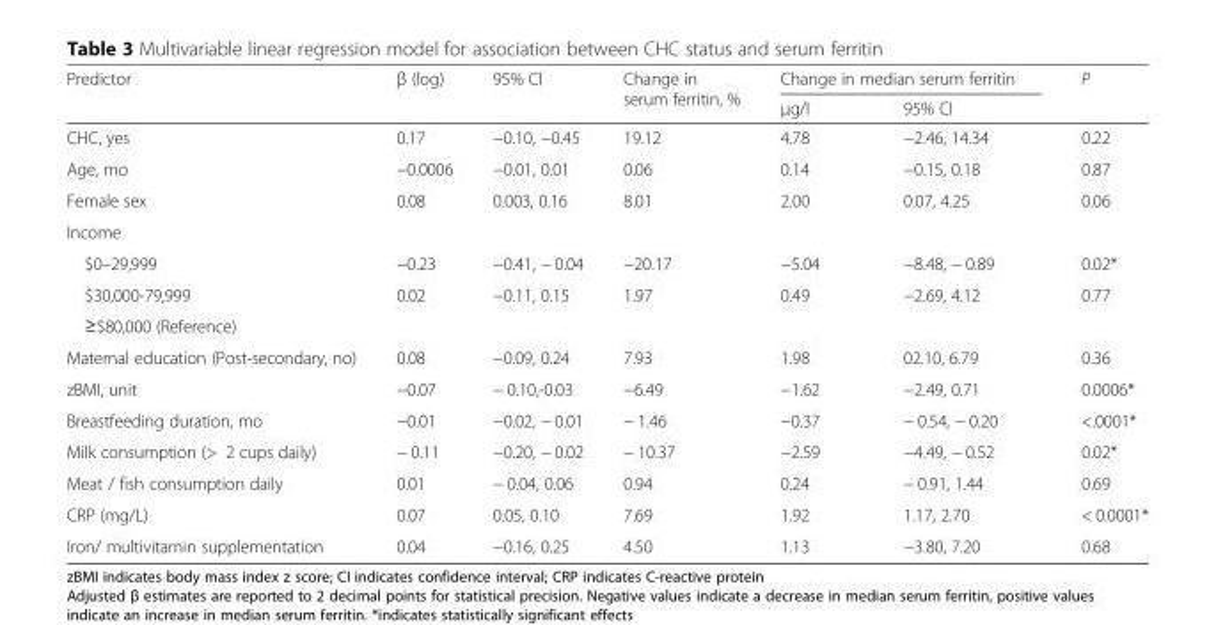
<table><thead><tr><td rowspan="2">Predictor</td><td rowspan="2">β (log)</td><td rowspan="2">95% CI</td><td rowspan="2">Change in serum ferritin, %</td><td colspan="2">Change in median serum ferritin</td><td rowspan="2">P</td></tr><tr><td>μg/l</td><td>95% CI</td></tr></thead><tbody><tr><td>CHC, yes</td><td>0.17</td><td>−0.10, −0.45</td><td>19.12</td><td>4.78</td><td>−2.46, 14.34</td><td>0.22</td></tr><tr><td>Age, mo</td><td>−0.0006</td><td>−0.01, 0.01</td><td>0.06</td><td>0.14</td><td>−0.15, 0.18</td><td>0.87</td></tr><tr><td>Female sex</td><td>0.08</td><td>0.003, 0.16</td><td>8.01</td><td>2.00</td><td>0.07, 4.25</td><td>0.06</td></tr><tr><td colspan="7">Income</td></tr><tr><td>$0–29,999</td><td>−0.23</td><td>−0.41, − 0.04</td><td>−20.17</td><td>−5.04</td><td>−8.48, − 0.89</td><td>0.02*</td></tr><tr><td>$30,000-79,999</td><td>0.02</td><td>−0.11, 0.15</td><td>1.97</td><td>0.49</td><td>−2.69, 4.12</td><td>0.77</td></tr><tr><td colspan="7">≥$80,000 (Reference)</td></tr><tr><td>Maternal education (Post-secondary, no)</td><td>0.08</td><td>−0.09, 0.24</td><td>7.93</td><td>1.98</td><td>02.10, 6.79</td><td>0.36</td></tr><tr><td>zBMI, unit</td><td>−0.07</td><td>− 0.10,-0.03</td><td>−6.49</td><td>−1.62</td><td>−2.49, 0.71</td><td>0.0006*</td></tr><tr><td>Breastfeeding duration, mo</td><td>−0.01</td><td>−0.02, − 0.01</td><td>− 1.46</td><td>−0.37</td><td>− 0.54, − 0.20</td><td>&lt;.0001*</td></tr><tr><td>Milk consumption (&gt; 2 cups daily)</td><td>− 0.11</td><td>−0.20, − 0.02</td><td>− 10.37</td><td>−2.59</td><td>−4.49, − 0.52</td><td>0.02*</td></tr><tr><td>Meat / fish consumption daily</td><td>0.01</td><td>− 0.04, 0.06</td><td>0.94</td><td>0.24</td><td>− 0.91, 1.44</td><td>0.69</td></tr><tr><td>CRP (mg/L)</td><td>0.07</td><td>0.05, 0.10</td><td>7.69</td><td>1.92</td><td>1.17, 2.70</td><td>&lt; 0.0001*</td></tr><tr><td>Iron/ multivitamin supplementation</td><td>0.04</td><td>−0.16, 0.25</td><td>4.50</td><td>1.13</td><td>−3.80, 7.20</td><td>0.68</td></tr></tbody></table>